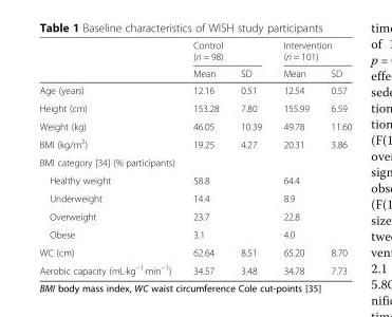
<table><thead><tr><td rowspan="2"></td><td colspan="2">Control (n = 98)</td><td colspan="2">Intervention (n = 101)</td></tr><tr><td>Mean</td><td>SD</td><td>Mean</td><td>SD</td></tr></thead><tbody><tr><td>Age (years)</td><td>12.16</td><td>0.51</td><td>12.54</td><td>0.57</td></tr><tr><td>Height (cm)</td><td>153.28</td><td>7.80</td><td>155.99</td><td>6.59</td></tr><tr><td>Weight (kg)</td><td>46.05</td><td>10.39</td><td>49.78</td><td>11.60</td></tr><tr><td>BMI (kg/m<sup>2</sup>)</td><td>19.25</td><td>4.27</td><td>20.31</td><td>3.86</td></tr><tr><td colspan="5">BMI category [34] (% participants)</td></tr><tr><td>Healthy weight</td><td colspan="2">58.8</td><td colspan="2">64.4</td></tr><tr><td>Underweight</td><td colspan="2">14.4</td><td colspan="2">8.9</td></tr><tr><td>Overweight</td><td colspan="2">23.7</td><td colspan="2">22.8</td></tr><tr><td>Obese</td><td colspan="2">3.1</td><td colspan="2">4.0</td></tr><tr><td>WC (cm)</td><td>62.64</td><td>8.51</td><td>65.20</td><td>8.70</td></tr><tr><td>Aerobic capacity (mL∙kg<sup>−1</sup>∙min<sup>−1</sup>)</td><td>34.57</td><td>3.48</td><td>34.78</td><td>7.73</td></tr></tbody></table>